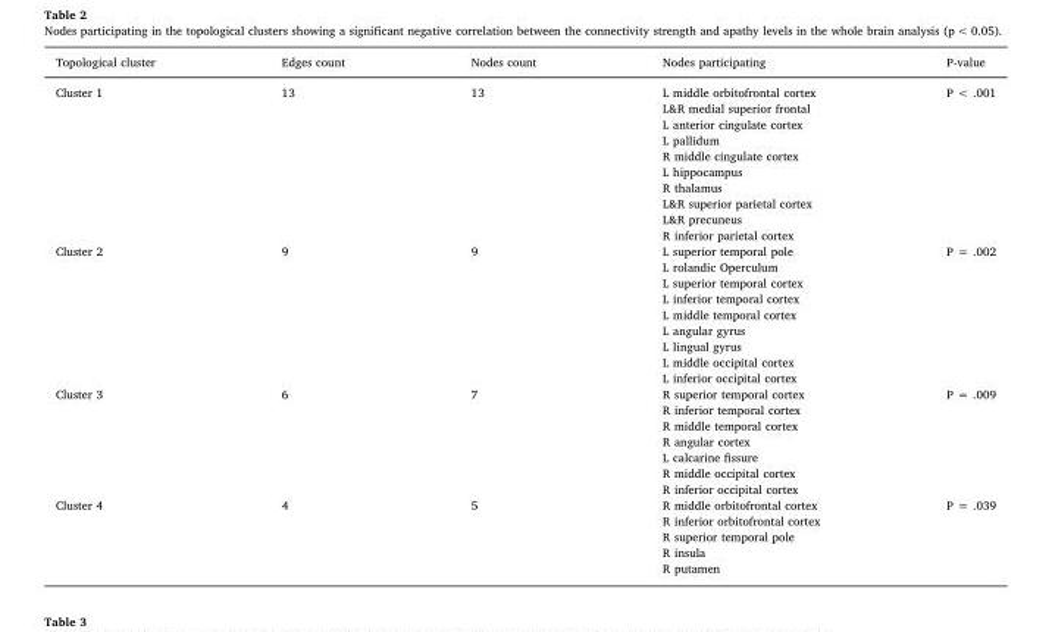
<table><thead><tr><td>Topological cluster</td><td>Edges count</td><td>Nodes count</td><td>Nodes participating</td><td>P-value</td></tr></thead><tbody><tr><td rowspan="10">Cluster 1</td><td rowspan="10">13</td><td rowspan="10">13</td><td>L middle orbitofrontal cortex</td><td rowspan="10">P &lt; .001</td></tr><tr><td>L&amp;R medial superior frontal</td></tr><tr><td>L anterior cingulate cortex</td></tr><tr><td>L pallidum</td></tr><tr><td>R middle cingulate cortex</td></tr><tr><td>L hippocampus</td></tr><tr><td>R thalamus</td></tr><tr><td>L&amp;R superior parietal cortex</td></tr><tr><td>L&amp;R precuneus</td></tr><tr><td>R inferior parietal cortex</td></tr><tr><td rowspan="9">Cluster 2</td><td rowspan="9">9</td><td rowspan="9">9</td><td>L superior temporal pole</td><td rowspan="9">P = .002</td></tr><tr><td>L rolandic Operculum</td></tr><tr><td>L superior temporal cortex</td></tr><tr><td>L inferior temporal cortex</td></tr><tr><td>L middle temporal cortex</td></tr><tr><td>L angular gyrus</td></tr><tr><td>L lingual gyrus</td></tr><tr><td>L middle occipital cortex</td></tr><tr><td>L inferior occipital cortex</td></tr><tr><td rowspan="7">Cluster 3</td><td rowspan="7">6</td><td rowspan="7">7</td><td>R superior temporal cortex</td><td rowspan="7">P = .009</td></tr><tr><td>R inferior temporal cortex</td></tr><tr><td>R middle temporal cortex</td></tr><tr><td>R angular cortex</td></tr><tr><td>L calcarine fissure</td></tr><tr><td>R middle occipital cortex</td></tr><tr><td>R inferior occipital cortex</td></tr><tr><td rowspan="5">Cluster 4</td><td rowspan="5">4</td><td rowspan="5">5</td><td>R middle orbitofrontal cortex</td><td rowspan="5">P = .039</td></tr><tr><td>R inferior orbitofrontal cortex</td></tr><tr><td>R superior temporal pole</td></tr><tr><td>R insula</td></tr><tr><td>R putamen</td></tr></tbody></table>